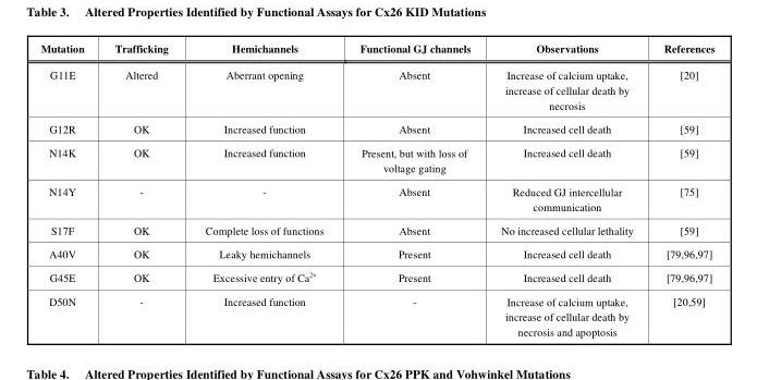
<table><thead><tr><td>Mutation</td><td>Trafficking</td><td>Hemichannels</td><td>Functional GJ channels</td><td>Observations</td><td>References</td></tr></thead><tbody><tr><td>G11E</td><td>Altered</td><td>Aberrant opening</td><td>Absent</td><td>Increase of calcium uptake, increase of cellular death by necrosis</td><td>[20]</td></tr><tr><td>G12R</td><td>OK</td><td>Increased function</td><td>Absent</td><td>Increased cell death</td><td>[59]</td></tr><tr><td>N14K</td><td>OK</td><td>Increased function</td><td>Present, but with loss of voltage gating</td><td>Increased cell death</td><td>[59]</td></tr><tr><td>N14Y</td><td>-</td><td>-</td><td>Absent</td><td>Reduced GJ intercellular communication</td><td>[75]</td></tr><tr><td>S17F</td><td>OK</td><td>Complete loss of functions</td><td>Absent</td><td>No increased cellular lethality</td><td>[59]</td></tr><tr><td>A40V</td><td>OK</td><td>Leaky hemichannels</td><td>Present</td><td>Increased cell death</td><td>[79,96,97]</td></tr><tr><td>G45E</td><td>OK</td><td>Excessive entry of Ca<sup>2+</sup></td><td>Present</td><td>Increased cell death</td><td>[79,96,97]</td></tr><tr><td>D50N</td><td>-</td><td>Increased function</td><td>-</td><td>Increase of calcium uptake, increase of cellular death by necrosis and apoptosis</td><td>[20,59]</td></tr></tbody></table>